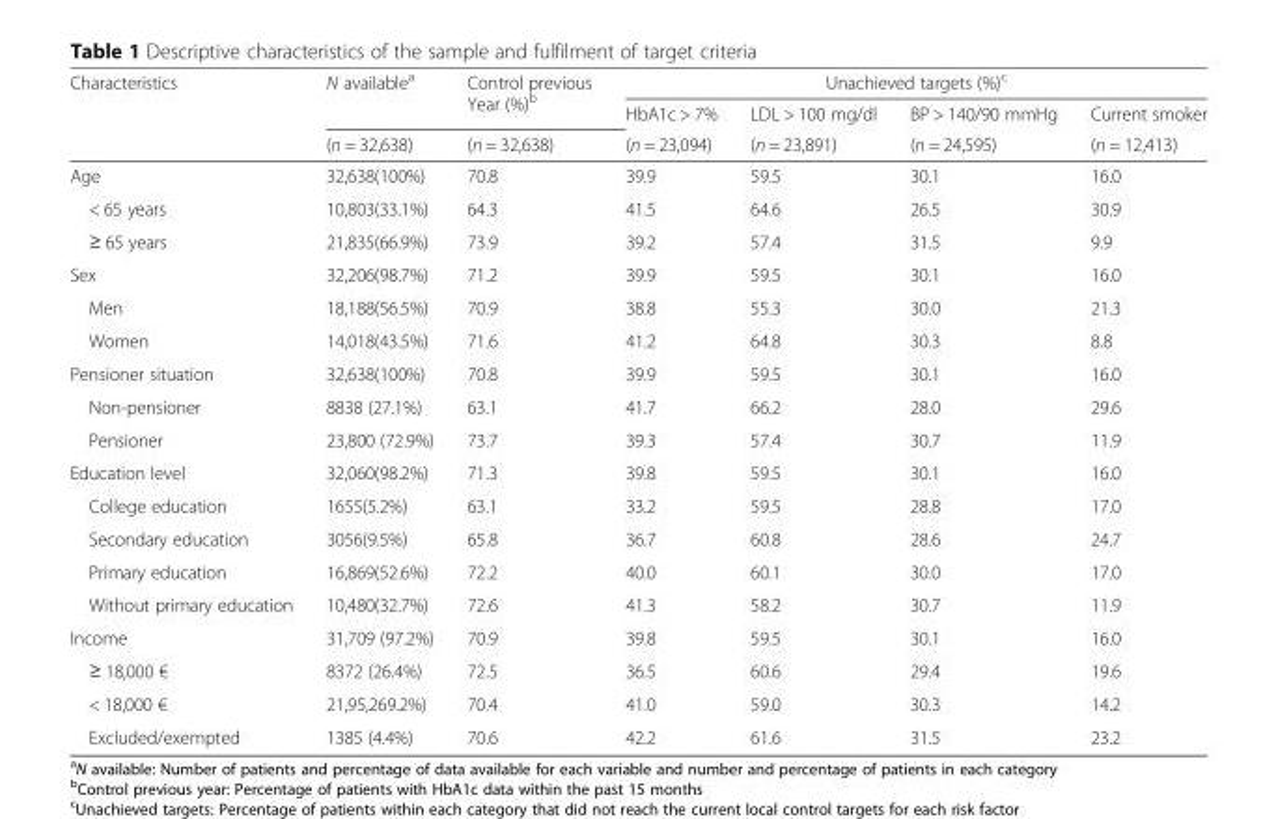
<table><thead><tr><td rowspan="3">Characteristics</td><td rowspan="3">N available<sup>a</sup> (n = 32,638)</td><td rowspan="3">Control previous Year (%)<sup>b</sup> (n = 32,638)</td><td colspan="4">Unachieved targets (%)<sup>c</sup></td></tr><tr><td rowspan="2">HbA1c &gt; 7% (n = 23,094)</td><td rowspan="2">LDL &gt; 100 mg/dl (n = 23,891)</td><td rowspan="2">BP &gt; 140/90 mmHg (n = 24,595)</td><td rowspan="2">Current smoker (n = 12,413)</td></tr><tr></tr></thead><tbody><tr><td>Age</td><td>32,638(100%)</td><td>70.8</td><td>39.9</td><td>59.5</td><td>30.1</td><td>16.0</td></tr><tr><td>&lt; 65 years</td><td>10,803(33.1%)</td><td>64.3</td><td>41.5</td><td>64.6</td><td>26.5</td><td>30.9</td></tr><tr><td>≥ 65 years</td><td>21,835(66.9%)</td><td>73.9</td><td>39.2</td><td>57.4</td><td>31.5</td><td>9.9</td></tr><tr><td>Sex</td><td>32,206(98.7%)</td><td>71.2</td><td>39.9</td><td>59.5</td><td>30.1</td><td>16.0</td></tr><tr><td>Men</td><td>18,188(56.5%)</td><td>70.9</td><td>38.8</td><td>55.3</td><td>30.0</td><td>21.3</td></tr><tr><td>Women</td><td>14,018(43.5%)</td><td>71.6</td><td>41.2</td><td>64.8</td><td>30.3</td><td>8.8</td></tr><tr><td>Pensioner situation</td><td>32,638(100%)</td><td>70.8</td><td>39.9</td><td>59.5</td><td>30.1</td><td>16.0</td></tr><tr><td>Non-pensioner</td><td>8838 (27.1%)</td><td>63.1</td><td>41.7</td><td>66.2</td><td>28.0</td><td>29.6</td></tr><tr><td>Pensioner</td><td>23,800 (72.9%)</td><td>73.7</td><td>39.3</td><td>57.4</td><td>30.7</td><td>11.9</td></tr><tr><td>Education level</td><td>32,060(98.2%)</td><td>71.3</td><td>39.8</td><td>59.5</td><td>30.1</td><td>16.0</td></tr><tr><td>College education</td><td>1655(5.2%)</td><td>63.1</td><td>33.2</td><td>59.5</td><td>28.8</td><td>17.0</td></tr><tr><td>Secondary education</td><td>3056(9.5%)</td><td>65.8</td><td>36.7</td><td>60.8</td><td>28.6</td><td>24.7</td></tr><tr><td>Primary education</td><td>16,869(52.6%)</td><td>72.2</td><td>40.0</td><td>60.1</td><td>30.0</td><td>17.0</td></tr><tr><td>Without primary education</td><td>10,480(32.7%)</td><td>72.6</td><td>41.3</td><td>58.2</td><td>30.7</td><td>11.9</td></tr><tr><td>Income</td><td>31,709 (97.2%)</td><td>70.9</td><td>39.8</td><td>59.5</td><td>30.1</td><td>16.0</td></tr><tr><td>≥ 18,000 €</td><td>8372 (26.4%)</td><td>72.5</td><td>36.5</td><td>60.6</td><td>29.4</td><td>19.6</td></tr><tr><td>&lt; 18,000 €</td><td>21,95,269.2%)</td><td>70.4</td><td>41.0</td><td>59.0</td><td>30.3</td><td>14.2</td></tr><tr><td>Excluded/exempted</td><td>1385 (4.4%)</td><td>70.6</td><td>42.2</td><td>61.6</td><td>31.5</td><td>23.2</td></tr></tbody></table>